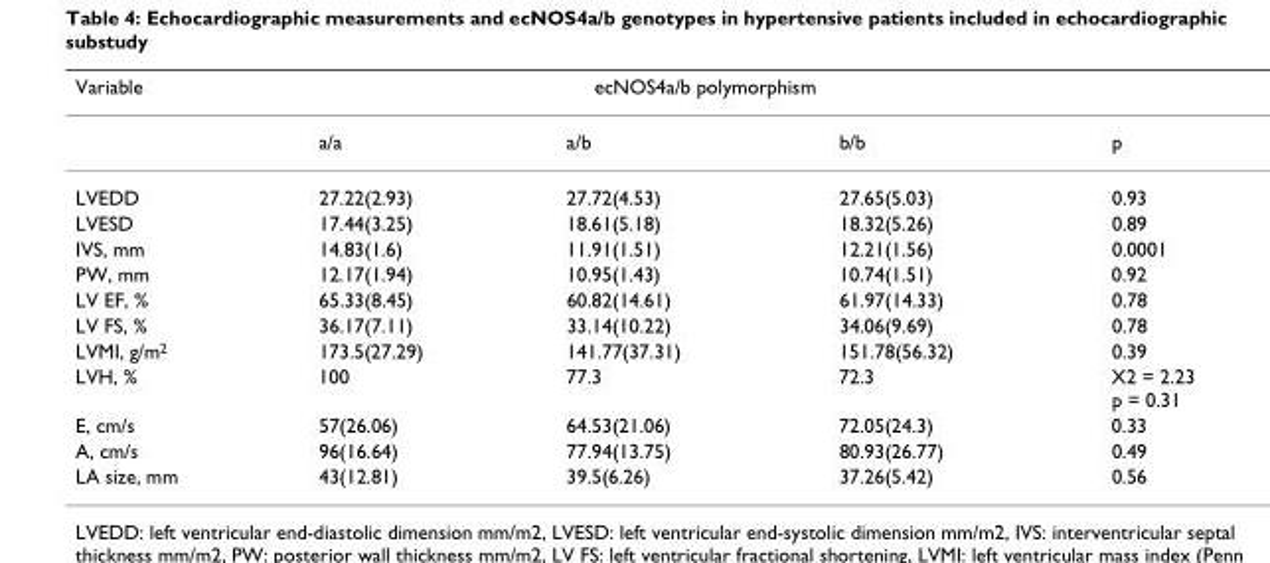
<table><thead><tr><td rowspan="2">Variable</td><td colspan="3">ecNOS4a/b polymorphism</td><td rowspan="2">p</td></tr><tr><td>a/a</td><td>a/b</td><td>b/b</td></tr></thead><tbody><tr><td>LVEDD</td><td>27.22(2.93)</td><td>27.72(4.53)</td><td>27.65(5.03)</td><td>0.93</td></tr><tr><td>LVESD</td><td>17.44(3.25)</td><td>18.61(5.18)</td><td>18.32(5.26)</td><td>0.89</td></tr><tr><td>IVS, mm</td><td>14.83(1.6)</td><td>11.91(1.51)</td><td>12.21(1.56)</td><td>0.0001</td></tr><tr><td>PW, mm</td><td>12.17(1.94)</td><td>10.95(1.43)</td><td>10.74(1.51)</td><td>0.92</td></tr><tr><td>LV EF, %</td><td>65.33(8.45)</td><td>60.82(14.61)</td><td>61.97(14.33)</td><td>0.78</td></tr><tr><td>LV FS, %</td><td>36.17(7.11)</td><td>33.14(10.22)</td><td>34.06(9.69)</td><td>0.78</td></tr><tr><td>LVMI, g/m<sup>2</sup></td><td>173.5(27.29)</td><td>141.77(37.31)</td><td>151.78(56.32)</td><td>0.39</td></tr><tr><td>LVH, %</td><td>100</td><td>77.3</td><td>72.3</td><td>X2 = 2.23 p = 0.31</td></tr><tr><td>E, cm/s</td><td>57(26.06)</td><td>64.53(21.06)</td><td>72.05(24.3)</td><td>0.33</td></tr><tr><td>A, cm/s</td><td>96(16.64)</td><td>77.94(13.75)</td><td>80.93(26.77)</td><td>0.49</td></tr><tr><td>LA size, mm</td><td>43(12.81)</td><td>39.5(6.26)</td><td>37.26(5.42)</td><td>0.56</td></tr></tbody></table>